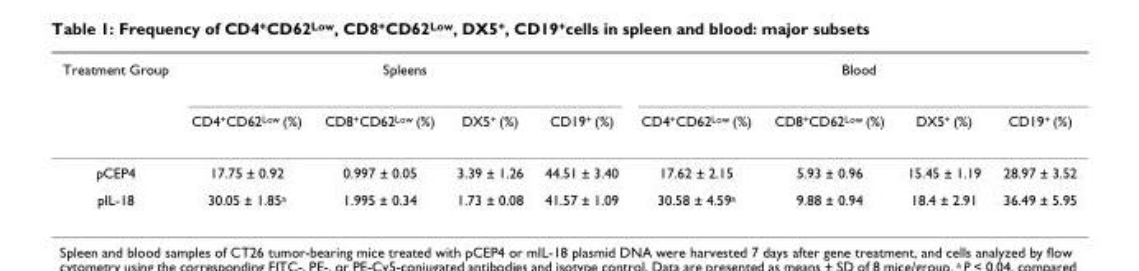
<table><thead><tr><td rowspan="2">Treatment Group</td><td colspan="4">Spleens</td><td colspan="4">Blood</td></tr><tr><td>CD4<sup>+</sup>CD62<sup>Low</sup> (%)</td><td>CD8<sup>+</sup>CD62<sup>Low</sup> (%)</td><td>DX5<sup>+</sup> (%)</td><td>CD19<sup>+</sup> (%)</td><td>CD4<sup>+</sup>CD62<sup>Low</sup> (%)</td><td>CD8<sup>+</sup>CD62<sup>Low</sup> (%)</td><td>DX5<sup>+</sup> (%)</td><td>CD19<sup>+</sup> (%)</td></tr></thead><tbody><tr><td>pCEP4</td><td>17.75 ± 0.92</td><td>0.997 ± 0.05</td><td>3.39 ± 1.26</td><td>44.51 ± 3.40</td><td>17.62 ± 2.15</td><td>5.93 ± 0.96</td><td>15.45 ± 1.19</td><td>28.97 ± 3.52</td></tr><tr><td>pIL-18</td><td>30.05 ± 1.85<sup>a</sup></td><td>1.995 ± 0.34</td><td>1.73 ± 0.08</td><td>41.57 ± 1.09</td><td>30.58 ± 4.59<sup>a</sup></td><td>9.88 ± 0.94</td><td>18.4 ± 2.91</td><td>36.49 ± 5.95</td></tr></tbody></table>